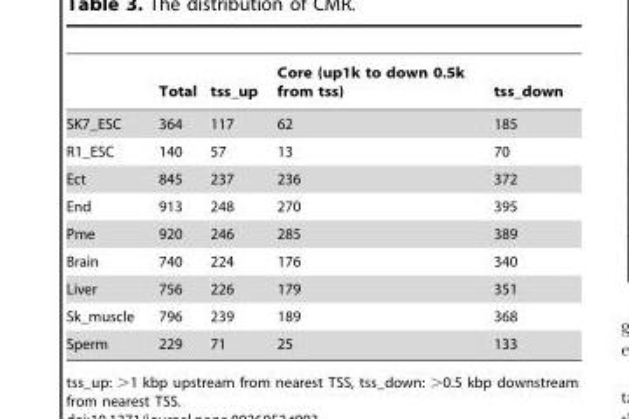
<table><thead><tr><td></td><td>Total</td><td>tss_up</td><td>Core (up1k to down 0.5k from tss)</td><td>tss_down</td></tr></thead><tbody><tr><td>SK7_ESC</td><td>364</td><td>117</td><td>62</td><td>185</td></tr><tr><td>R1_ESC</td><td>140</td><td>57</td><td>13</td><td>70</td></tr><tr><td>Ect</td><td>845</td><td>237</td><td>236</td><td>372</td></tr><tr><td>End</td><td>913</td><td>248</td><td>270</td><td>395</td></tr><tr><td>Pme</td><td>920</td><td>246</td><td>285</td><td>389</td></tr><tr><td>Brain</td><td>740</td><td>224</td><td>176</td><td>340</td></tr><tr><td>Liver</td><td>756</td><td>226</td><td>179</td><td>351</td></tr><tr><td>Sk_muscle</td><td>796</td><td>239</td><td>189</td><td>368</td></tr><tr><td>Sperm</td><td>229</td><td>71</td><td>25</td><td>133</td></tr></tbody></table>